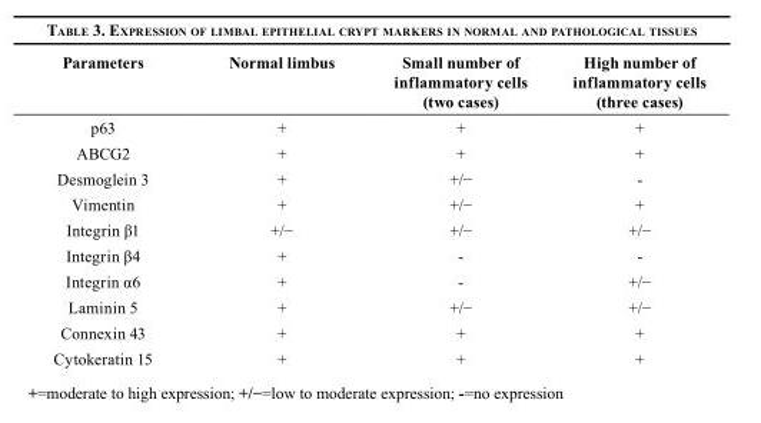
<table><thead><tr><td>Parameters</td><td>Normal limbus</td><td>Small number of inflammatory cells (two cases)</td><td>High number of inflammatory cells (three cases)</td></tr></thead><tbody><tr><td>p63</td><td>+</td><td>+</td><td>+</td></tr><tr><td>ABCG2</td><td>+</td><td>+</td><td>+</td></tr><tr><td>Desmoglein 3</td><td>+</td><td>+/−</td><td>-</td></tr><tr><td>Vimentin</td><td>+</td><td>+/−</td><td>+</td></tr><tr><td>Integrin β1</td><td>+/−</td><td>+/−</td><td>+/−</td></tr><tr><td>Integrin β4</td><td>+</td><td>-</td><td>-</td></tr><tr><td>Integrin α6</td><td>+</td><td>-</td><td>+/−</td></tr><tr><td>Laminin 5</td><td>+</td><td>+/−</td><td>+/−</td></tr><tr><td>Connexin 43</td><td>+</td><td>+</td><td>+</td></tr><tr><td>Cytokeratin 15</td><td>+</td><td>+</td><td>+</td></tr></tbody></table>